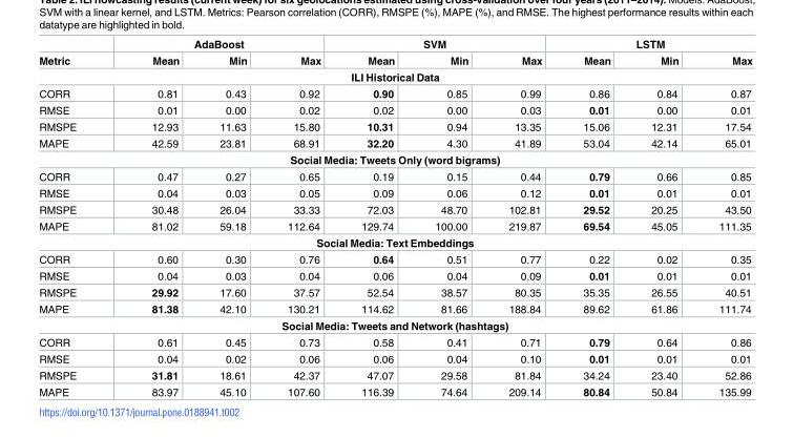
<table><thead><tr><td rowspan="2">Metric</td><td colspan="3">AdaBoost</td><td colspan="3">SVM</td><td colspan="3">LSTM</td></tr><tr><td>Mean</td><td>Min</td><td>Max</td><td>Mean</td><td>Min</td><td>Max</td><td>Mean</td><td>Min</td><td>Max</td></tr></thead><tbody><tr><td colspan="10">ILI Historical Data</td></tr><tr><td>CORR</td><td>0.81</td><td>0.43</td><td>0.92</td><td>0.90</td><td>0.85</td><td>0.99</td><td>0.86</td><td>0.84</td><td>0.87</td></tr><tr><td>RMSE</td><td>0.01</td><td>0.00</td><td>0.02</td><td>0.02</td><td>0.00</td><td>0.03</td><td>0.01</td><td>0.00</td><td>0.01</td></tr><tr><td>RMSPE</td><td>12.93</td><td>11.63</td><td>15.80</td><td>10.31</td><td>0.94</td><td>13.35</td><td>15.06</td><td>12.31</td><td>17.54</td></tr><tr><td>MAPE</td><td>42.59</td><td>23.81</td><td>68.91</td><td>32.20</td><td>4.30</td><td>41.89</td><td>53.04</td><td>42.14</td><td>65.01</td></tr><tr><td colspan="10">Social Media: Tweets Only (word bigrams)</td></tr><tr><td>CORR</td><td>0.47</td><td>0.27</td><td>0.65</td><td>0.19</td><td>0.15</td><td>0.44</td><td>0.79</td><td>0.66</td><td>0.85</td></tr><tr><td>RMSE</td><td>0.04</td><td>0.03</td><td>0.05</td><td>0.09</td><td>0.06</td><td>0.12</td><td>0.01</td><td>0.01</td><td>0.01</td></tr><tr><td>RMSPE</td><td>30.48</td><td>26.04</td><td>33.33</td><td>72.03</td><td>48.70</td><td>102.81</td><td>29.52</td><td>20.25</td><td>43.50</td></tr><tr><td>MAPE</td><td>81.02</td><td>59.18</td><td>112.64</td><td>129.74</td><td>100.00</td><td>219.87</td><td>69.54</td><td>45.05</td><td>111.35</td></tr><tr><td colspan="10">Social Media: Text Embeddings</td></tr><tr><td>CORR</td><td>0.60</td><td>0.30</td><td>0.76</td><td>0.64</td><td>0.51</td><td>0.77</td><td>0.22</td><td>0.02</td><td>0.35</td></tr><tr><td>RMSE</td><td>0.04</td><td>0.03</td><td>0.04</td><td>0.06</td><td>0.04</td><td>0.09</td><td>0.01</td><td>0.01</td><td>0.01</td></tr><tr><td>RMSPE</td><td>29.92</td><td>17.60</td><td>37.57</td><td>52.54</td><td>38.57</td><td>80.35</td><td>35.35</td><td>26.55</td><td>40.51</td></tr><tr><td>MAPE</td><td>81.38</td><td>42.10</td><td>130.21</td><td>114.62</td><td>81.66</td><td>188.84</td><td>89.62</td><td>61.86</td><td>111.74</td></tr><tr><td colspan="10">Social Media: Tweets and Network (hashtags)</td></tr><tr><td>CORR</td><td>0.61</td><td>0.45</td><td>0.73</td><td>0.58</td><td>0.41</td><td>0.71</td><td>0.79</td><td>0.64</td><td>0.86</td></tr><tr><td>RMSE</td><td>0.04</td><td>0.02</td><td>0.06</td><td>0.06</td><td>0.04</td><td>0.10</td><td>0.01</td><td>0.01</td><td>0.01</td></tr><tr><td>RMSPE</td><td>31.81</td><td>18.61</td><td>42.37</td><td>47.07</td><td>29.58</td><td>81.84</td><td>34.24</td><td>23.40</td><td>52.86</td></tr><tr><td>MAPE</td><td>83.97</td><td>45.10</td><td>107.60</td><td>116.39</td><td>74.64</td><td>209.14</td><td>80.84</td><td>50.84</td><td>135.99</td></tr></tbody></table>